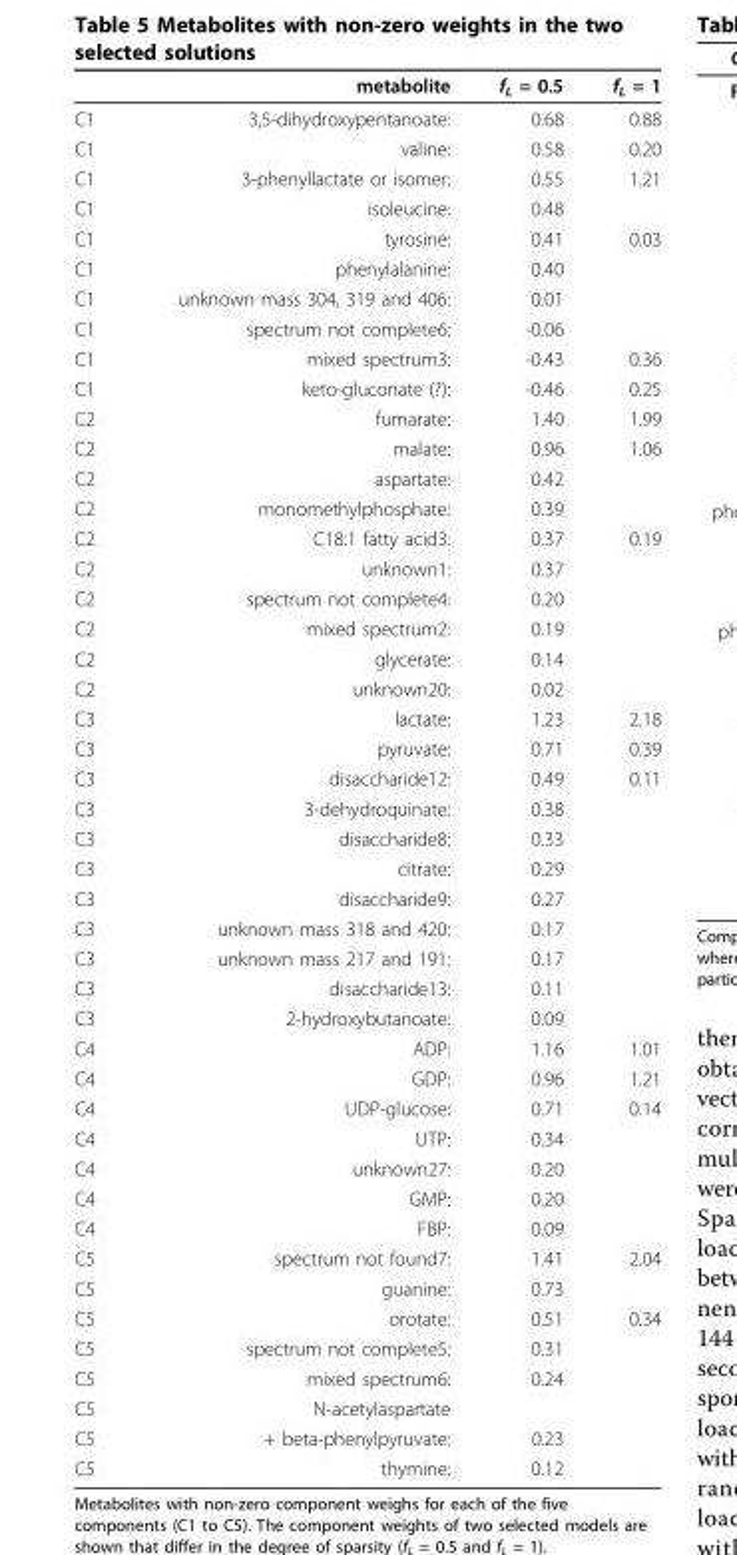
<table><thead><tr><td></td><td>metabolite</td><td>f<sub>L</sub> = 0.5</td><td>f<sub>L</sub> = 1</td></tr></thead><tbody><tr><td>C1</td><td>3,5-dihydroxypentanoate:</td><td>0.68</td><td>0.88</td></tr><tr><td>C1</td><td>valine:</td><td>0.58</td><td>0.20</td></tr><tr><td>C1</td><td>3-phenyllactate or isomer:</td><td>0.55</td><td>1.21</td></tr><tr><td>C1</td><td>isoleucine:</td><td>0.48</td><td></td></tr><tr><td>C1</td><td>tyrosine:</td><td>0.41</td><td>0.03</td></tr><tr><td>C1</td><td>phenylalanine:</td><td>0.40</td><td></td></tr><tr><td>C1</td><td>unknown mass 304, 319 and 406:</td><td>0.01</td><td></td></tr><tr><td>C1</td><td>spectrum not complete6:</td><td>-0.06</td><td></td></tr><tr><td>C1</td><td>mixed spectrum3:</td><td>-0.43</td><td>0.36</td></tr><tr><td>C1</td><td>keto-gluconate (?):</td><td>-0.46</td><td>0.25</td></tr><tr><td>C2</td><td>fumarate:</td><td>1.40</td><td>1.99</td></tr><tr><td>C2</td><td>malate:</td><td>0.96</td><td>1.06</td></tr><tr><td>C2</td><td>aspartate:</td><td>0.42</td><td></td></tr><tr><td>C2</td><td>monomethylphosphate:</td><td>0.39</td><td></td></tr><tr><td>C2</td><td>C18:1 fatty acid3:</td><td>0.37</td><td>0.19</td></tr><tr><td>C2</td><td>unknown1:</td><td>0.37</td><td></td></tr><tr><td>C2</td><td>spectrum not complete4:</td><td>0.20</td><td></td></tr><tr><td>C2</td><td>mixed spectrum2:</td><td>0.19</td><td></td></tr><tr><td>C2</td><td>glycerate:</td><td>0.14</td><td></td></tr><tr><td>C2</td><td>unknown20:</td><td>0.02</td><td></td></tr><tr><td>C3</td><td>lactate:</td><td>1.23</td><td>2.18</td></tr><tr><td>C3</td><td>pyruvate:</td><td>0.71</td><td>0.39</td></tr><tr><td>C3</td><td>disaccharide12:</td><td>0.49</td><td>0.11</td></tr><tr><td>C3</td><td>3-dehydroquinate:</td><td>0.38</td><td></td></tr><tr><td>C3</td><td>disaccharide8:</td><td>0.33</td><td></td></tr><tr><td>C3</td><td>citrate:</td><td>0.29</td><td></td></tr><tr><td>C3</td><td>disaccharide9:</td><td>0.27</td><td></td></tr><tr><td>C3</td><td>unknown mass 318 and 420:</td><td>0.17</td><td></td></tr><tr><td>C3</td><td>unknown mass 217 and 191:</td><td>0.17</td><td></td></tr><tr><td>C3</td><td>disaccharide13:</td><td>0.11</td><td></td></tr><tr><td>C3</td><td>2-hydroxybutanoate:</td><td>0.09</td><td></td></tr><tr><td>C4</td><td>ADP:</td><td>1.16</td><td>1.01</td></tr><tr><td>C4</td><td>GDP:</td><td>0.96</td><td>1.21</td></tr><tr><td>C4</td><td>UDP-glucose:</td><td>0.71</td><td>0.14</td></tr><tr><td>C4</td><td>UTP:</td><td>0.34</td><td></td></tr><tr><td>C4</td><td>unknown27:</td><td>0.20</td><td></td></tr><tr><td>C4</td><td>GMP:</td><td>0.20</td><td></td></tr><tr><td>C4</td><td>FBP:</td><td>0.09</td><td></td></tr><tr><td>C5</td><td>spectrum not found7:</td><td>1.41</td><td>2.04</td></tr><tr><td>C5</td><td>guanine:</td><td>0.73</td><td></td></tr><tr><td>C5</td><td>orotate:</td><td>0.51</td><td>0.34</td></tr><tr><td>C5</td><td>spectrum not complete5:</td><td>0.31</td><td></td></tr><tr><td>C5</td><td>mixed spectrum6:</td><td>0.24</td><td></td></tr><tr><td>C5</td><td>N-acetylaspartate</td><td></td><td></td></tr><tr><td>C5</td><td>+ beta-phenylpyruvate:</td><td>0.23</td><td></td></tr><tr><td>C5</td><td>thymine:</td><td>0.12</td><td></td></tr></tbody></table>